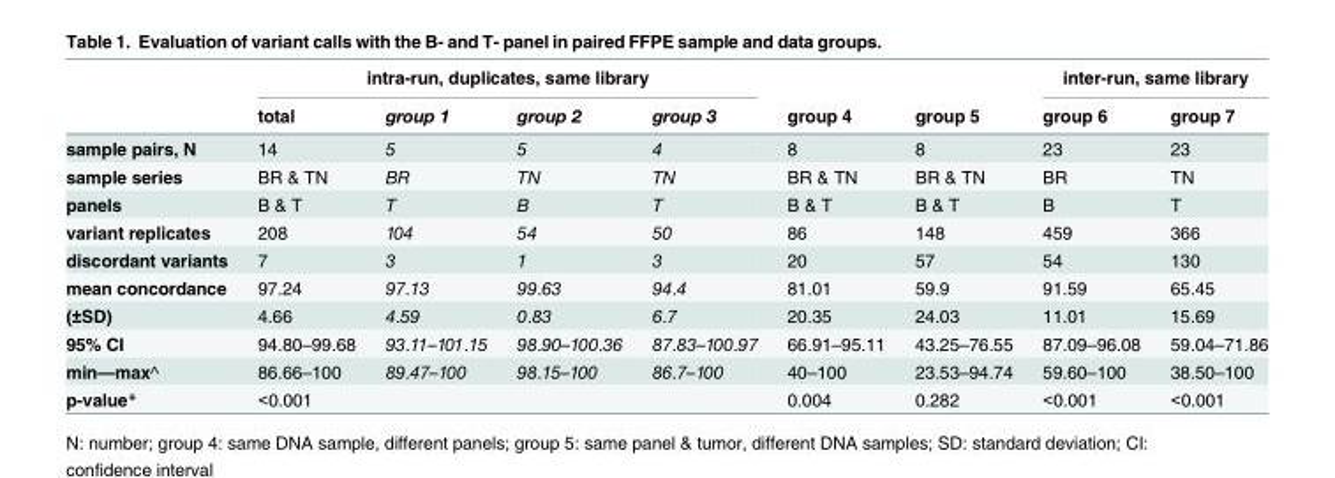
<table><thead><tr><td rowspan="2"></td><td colspan="4">intra-run, duplicates, same library</td><td rowspan="2">group 4</td><td rowspan="2">group 5</td><td colspan="2">inter-run, same library</td></tr><tr><td>total</td><td>group 1</td><td>group 2</td><td>group 3</td><td>group 6</td><td>group 7</td></tr></thead><tbody><tr><td>sample pairs, N</td><td>14</td><td>5</td><td>5</td><td>4</td><td>8</td><td>8</td><td>23</td><td>23</td></tr><tr><td>sample series</td><td>BR &amp; TN</td><td>BR</td><td>TN</td><td>TN</td><td>BR &amp; TN</td><td>BR &amp; TN</td><td>BR</td><td>TN</td></tr><tr><td>panels</td><td>B &amp; T</td><td>T</td><td>B</td><td>T</td><td>B &amp; T</td><td>B &amp; T</td><td>B</td><td>T</td></tr><tr><td>variant replicates</td><td>208</td><td>104</td><td>54</td><td>50</td><td>86</td><td>148</td><td>459</td><td>366</td></tr><tr><td>discordant variants</td><td>7</td><td>3</td><td>1</td><td>3</td><td>20</td><td>57</td><td>54</td><td>130</td></tr><tr><td>mean concordance</td><td>97.24</td><td>97.13</td><td>99.63</td><td>94.4</td><td>81.01</td><td>59.9</td><td>91.59</td><td>65.45</td></tr><tr><td>(±SD)</td><td>4.66</td><td>4.59</td><td>0.83</td><td>6.7</td><td>20.35</td><td>24.03</td><td>11.01</td><td>15.69</td></tr><tr><td>95% CI</td><td>94.80–99.68</td><td>93.11–101.15</td><td>98.90–100.36</td><td>87.83–100.97</td><td>66.91–95.11</td><td>43.25–76.55</td><td>87.09–96.08</td><td>59.04–71.86</td></tr><tr><td>min—max^</td><td>86.66–100</td><td>89.47–100</td><td>98.15–100</td><td>86.7–100</td><td>40–100</td><td>23.53–94.74</td><td>59.60–100</td><td>38.50–100</td></tr><tr><td>p-value*</td><td>&lt;0.001</td><td></td><td></td><td></td><td>0.004</td><td>0.282</td><td>&lt;0.001</td><td>&lt;0.001</td></tr></tbody></table>